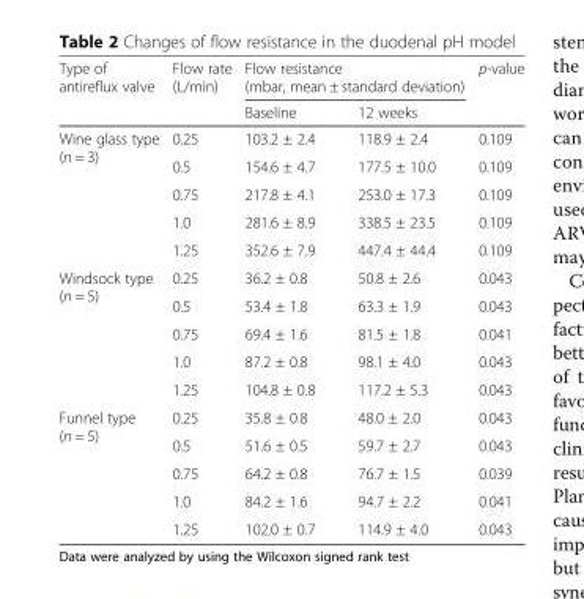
<table><thead><tr><td rowspan="2">Type of antireflux valve</td><td rowspan="2">Flow rate (L/min)</td><td colspan="2">Flow resistance (mbar, mean ± standard deviation)</td><td rowspan="2">p-value</td></tr><tr><td>Baseline</td><td>12 weeks</td></tr></thead><tbody><tr><td rowspan="5">Wine glass type (n = 3)</td><td>0.25</td><td>103.2 ± 2.4</td><td>118.9 ± 2.4</td><td>0.109</td></tr><tr><td>0.5</td><td>154.6 ± 4.7</td><td>177.5 ± 10.0</td><td>0.109</td></tr><tr><td>0.75</td><td>217.8 ± 4.1</td><td>253.0 ± 17.3</td><td>0.109</td></tr><tr><td>1.0</td><td>281.6 ± 8.9</td><td>338.5 ± 23.5</td><td>0.109</td></tr><tr><td>1.25</td><td>352.6 ± 7.9</td><td>447.4 ± 44.4</td><td>0.109</td></tr><tr><td rowspan="5">Windsock type (n = 5)</td><td>0.25</td><td>36.2 ± 0.8</td><td>50.8 ± 2.6</td><td>0.043</td></tr><tr><td>0.5</td><td>53.4 ± 1.8</td><td>63.3 ± 1.9</td><td>0.043</td></tr><tr><td>0.75</td><td>69.4 ± 1.6</td><td>81.5 ± 1.8</td><td>0.041</td></tr><tr><td>1.0</td><td>87.2 ± 0.8</td><td>98.1 ± 4.0</td><td>0.043</td></tr><tr><td>1.25</td><td>104.8 ± 0.8</td><td>117.2 ± 5.3</td><td>0.043</td></tr><tr><td rowspan="5">Funnel type (n = 5)</td><td>0.25</td><td>35.8 ± 0.8</td><td>48.0 ± 2.0</td><td>0.043</td></tr><tr><td>0.5</td><td>51.6 ± 0.5</td><td>59.7 ± 2.7</td><td>0.043</td></tr><tr><td>0.75</td><td>64.2 ± 0.8</td><td>76.7 ± 1.5</td><td>0.039</td></tr><tr><td>1.0</td><td>84.2 ± 1.6</td><td>94.7 ± 2.2</td><td>0.041</td></tr><tr><td>1.25</td><td>102.0 ± 0.7</td><td>114.9 ± 4.0</td><td>0.043</td></tr></tbody></table>